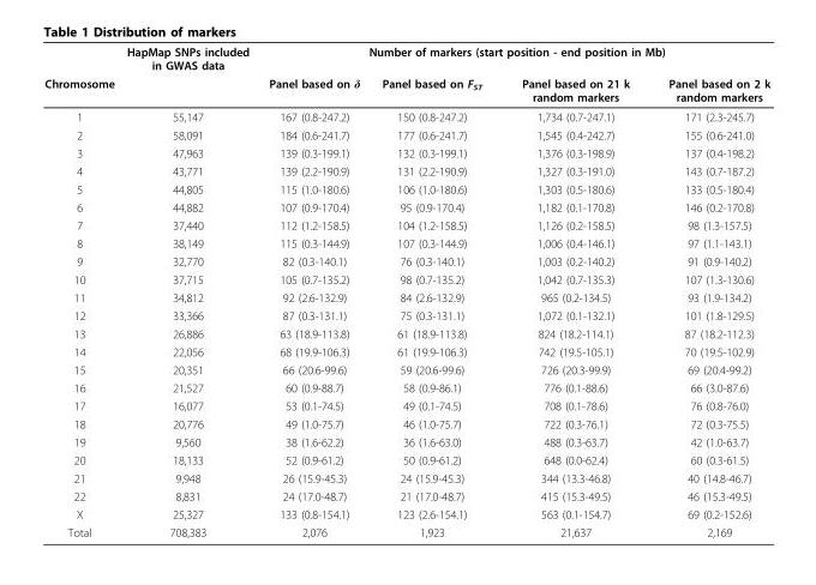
<table><thead><tr><td rowspan="2">Chromosome</td><td rowspan="2">HapMap SNPs included in GWAS data</td><td colspan="4">Number of markers (start position - end position in Mb)</td></tr><tr><td>Panel based on δ</td><td>Panel based on F<sub>ST</sub></td><td>Panel based on 21 k random markers</td><td>Panel based on 2 k random markers</td></tr></thead><tbody><tr><td>1</td><td>55,147</td><td>167 (0.8-247.2)</td><td>150 (0.8-247.2)</td><td>1,734 (0.7-247.1)</td><td>171 (2.3-245.7)</td></tr><tr><td>2</td><td>58,091</td><td>184 (0.6-241.7)</td><td>177 (0.6-241.7)</td><td>1,545 (0.4-242.7)</td><td>155 (0.6-241.0)</td></tr><tr><td>3</td><td>47,963</td><td>139 (0.3-199.1)</td><td>132 (0.3-199.1)</td><td>1,376 (0.3-198.9)</td><td>137 (0.4-198.2)</td></tr><tr><td>4</td><td>43,771</td><td>139 (2.2-190.9)</td><td>131 (2.2-190.9)</td><td>1,327 (0.3-191.0)</td><td>143 (0.7-187.2)</td></tr><tr><td>5</td><td>44,805</td><td>115 (1.0-180.6)</td><td>106 (1.0-180.6)</td><td>1,303 (0.5-180.6)</td><td>133 (0.5-180.4)</td></tr><tr><td>6</td><td>44,882</td><td>107 (0.9-170.4)</td><td>95 (0.9-170.4)</td><td>1,182 (0.1-170.8)</td><td>146 (0.2-170.8)</td></tr><tr><td>7</td><td>37,440</td><td>112 (1.2-158.5)</td><td>104 (1.2-158.5)</td><td>1,126 (0.2-158.5)</td><td>98 (1.3-157.5)</td></tr><tr><td>8</td><td>38,149</td><td>115 (0.3-144.9)</td><td>107 (0.3-144.9)</td><td>1,006 (0.4-146.1)</td><td>97 (1.1-143.1)</td></tr><tr><td>9</td><td>32,770</td><td>82 (0.3-140.1)</td><td>76 (0.3-140.1)</td><td>1,003 (0.2-140.2)</td><td>91 (0.9-140.2)</td></tr><tr><td>10</td><td>37,715</td><td>105 (0.7-135.2)</td><td>98 (0.7-135.2)</td><td>1,042 (0.7-135.3)</td><td>107 (1.3-130.6)</td></tr><tr><td>11</td><td>34,812</td><td>92 (2.6-132.9)</td><td>84 (2.6-132.9)</td><td>965 (0.2-134.5)</td><td>93 (1.9-134.2)</td></tr><tr><td>12</td><td>33,366</td><td>87 (0.3-131.1)</td><td>75 (0.3-131.1)</td><td>1,072 (0.1-132.1)</td><td>101 (1.8-129.5)</td></tr><tr><td>13</td><td>26,886</td><td>63 (18.9-113.8)</td><td>61 (18.9-113.8)</td><td>824 (18.2-114.1)</td><td>87 (18.2-112.3)</td></tr><tr><td>14</td><td>22,056</td><td>68 (19.9-106.3)</td><td>61 (19.9-106.3)</td><td>742 (19.5-105.1)</td><td>70 (19.5-102.9)</td></tr><tr><td>15</td><td>20,351</td><td>66 (20.6-99.6)</td><td>59 (20.6-99.6)</td><td>726 (20.3-99.9)</td><td>69 (20.4-99.2)</td></tr><tr><td>16</td><td>21,527</td><td>60 (0.9-88.7)</td><td>58 (0.9-86.1)</td><td>776 (0.1-88.6)</td><td>66 (3.0-87.6)</td></tr><tr><td>17</td><td>16,077</td><td>53 (0.1-74.5)</td><td>49 (0.1-74.5)</td><td>708 (0.1-78.6)</td><td>76 (0.8-76.0)</td></tr><tr><td>18</td><td>20,776</td><td>49 (1.0-75.7)</td><td>46 (1.0-75.7)</td><td>722 (0.3-76.1)</td><td>72 (0.3-75.5)</td></tr><tr><td>19</td><td>9,560</td><td>38 (1.6-62.2)</td><td>36 (1.6-63.0)</td><td>488 (0.3-63.7)</td><td>42 (1.0-63.7)</td></tr><tr><td>20</td><td>18,133</td><td>52 (0.9-61.2)</td><td>50 (0.9-61.2)</td><td>648 (0.0-62.4)</td><td>60 (0.3-61.5)</td></tr><tr><td>21</td><td>9,948</td><td>26 (15.9-45.3)</td><td>24 (15.9-45.3)</td><td>344 (13.3-46.8)</td><td>40 (14.8-46.7)</td></tr><tr><td>22</td><td>8,831</td><td>24 (17.0-48.7)</td><td>21 (17.0-48.7)</td><td>415 (15.3-49.5)</td><td>46 (15.3-49.5)</td></tr><tr><td>X</td><td>25,327</td><td>133 (0.8-154.1)</td><td>123 (2.6-154.1)</td><td>563 (0.1-154.7)</td><td>69 (0.2-152.6)</td></tr><tr><td>Total</td><td>708,383</td><td>2,076</td><td>1,923</td><td>21,637</td><td>2,169</td></tr></tbody></table>